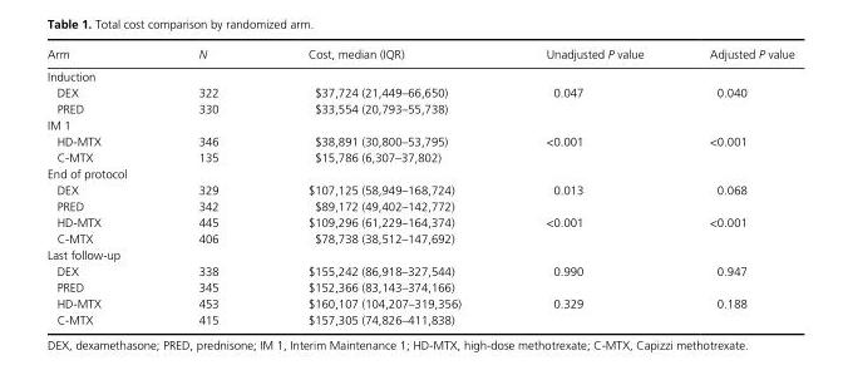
<table><thead><tr><td>Arm</td><td>N</td><td>Cost, median (IQR)</td><td>Unadjusted P value</td><td>Adjusted P value</td></tr></thead><tbody><tr><td colspan="5">Induction</td></tr><tr><td>DEX</td><td>322</td><td>$37,724 (21,449–66,650)</td><td rowspan="2">0.047</td><td rowspan="2">0.040</td></tr><tr><td>PRED</td><td>330</td><td>$33,554 (20,793–55,738)</td></tr><tr><td colspan="5">IM 1</td></tr><tr><td>HD- MTX</td><td>346</td><td>$38,891 (30,800–53,795)</td><td rowspan="2">&lt;0.001</td><td rowspan="2">&lt;0.001</td></tr><tr><td>C- MTX</td><td>135</td><td>$15,786 (6,307–37,802)</td></tr><tr><td colspan="5">End of protocol</td></tr><tr><td>DEX</td><td>329</td><td>$107,125 (58,949–168,724)</td><td rowspan="2">0.013</td><td rowspan="2">0.068</td></tr><tr><td>PRED</td><td>342</td><td>$89,172 (49,402–142,772)</td></tr><tr><td>HD- MTX</td><td>445</td><td>$109,296 (61,229–164,374)</td><td rowspan="2">&lt;0.001</td><td rowspan="2">&lt;0.001</td></tr><tr><td>C- MTX</td><td>406</td><td>$78,738 (38,512–147,692)</td></tr><tr><td colspan="5">Last follow- up</td></tr><tr><td>DEX</td><td>338</td><td>$155,242 (86,918–327,544)</td><td rowspan="2">0.990</td><td rowspan="2">0.947</td></tr><tr><td>PRED</td><td>345</td><td>$152,366 (83,143–374,166)</td></tr><tr><td>HD- MTX</td><td>453</td><td>$160,107 (104,207–319,356)</td><td rowspan="2">0.329</td><td rowspan="2">0.188</td></tr><tr><td>C- MTX</td><td>415</td><td>$157,305 (74,826–411,838)</td></tr></tbody></table>